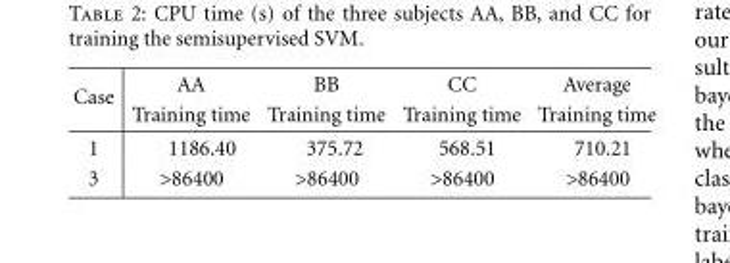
<table><thead><tr><td rowspan="2">Case</td><td rowspan="2">AA Training time</td><td rowspan="2">BB Training time</td><td rowspan="2">CC Training time</td><td rowspan="2">Average Training time</td></tr><tr></tr></thead><tbody><tr><td>1</td><td>1186.40</td><td>375.72</td><td>568.51</td><td>710.21</td></tr><tr><td>3</td><td>&gt;86400</td><td>&gt;86400</td><td>&gt;86400</td><td>&gt;86400</td></tr></tbody></table>